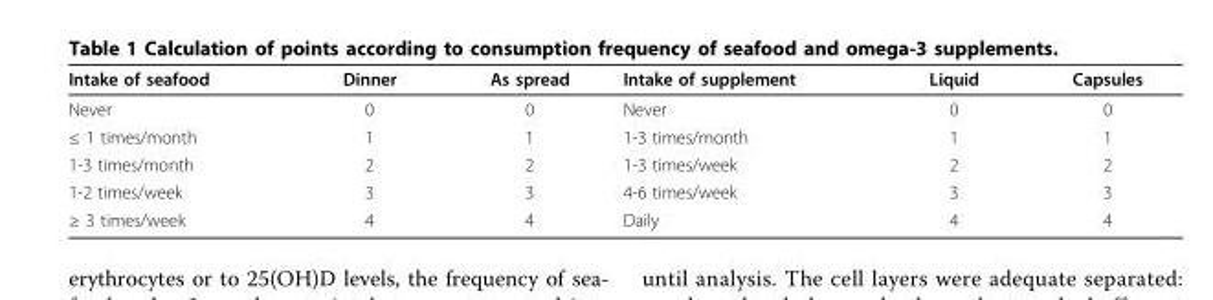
<table><thead><tr><td>Intake of seafood</td><td>Dinner</td><td>As spread</td><td>Intake of supplement</td><td>Liquid</td><td>Capsules</td></tr></thead><tbody><tr><td>Never</td><td>0</td><td>0</td><td>Never</td><td>0</td><td>0</td></tr><tr><td>≤ 1 times/month</td><td>1</td><td>1</td><td>1-3 times/month</td><td>1</td><td>1</td></tr><tr><td>1-3 times/month</td><td>2</td><td>2</td><td>1-3 times/week</td><td>2</td><td>2</td></tr><tr><td>1-2 times/week</td><td>3</td><td>3</td><td>4-6 times/week</td><td>3</td><td>3</td></tr><tr><td>≥ 3 times/week</td><td>4</td><td>4</td><td>Daily</td><td>4</td><td>4</td></tr></tbody></table>